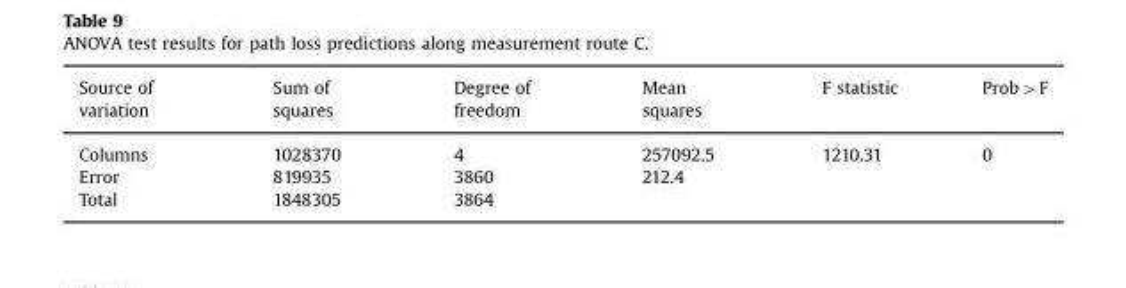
<table><thead><tr><td>Source of variation</td><td>Sum of squares</td><td>Degree of freedom</td><td>Mean squares</td><td>F statistic</td><td>Prob&gt;F</td></tr></thead><tbody><tr><td>Columns</td><td>1028370</td><td>4</td><td>257092.5</td><td>1210.31</td><td>0</td></tr><tr><td>Error</td><td>819935</td><td>3860</td><td>212.4</td><td></td><td></td></tr><tr><td>Total</td><td>1848305</td><td>3864</td><td></td><td></td><td></td></tr></tbody></table>